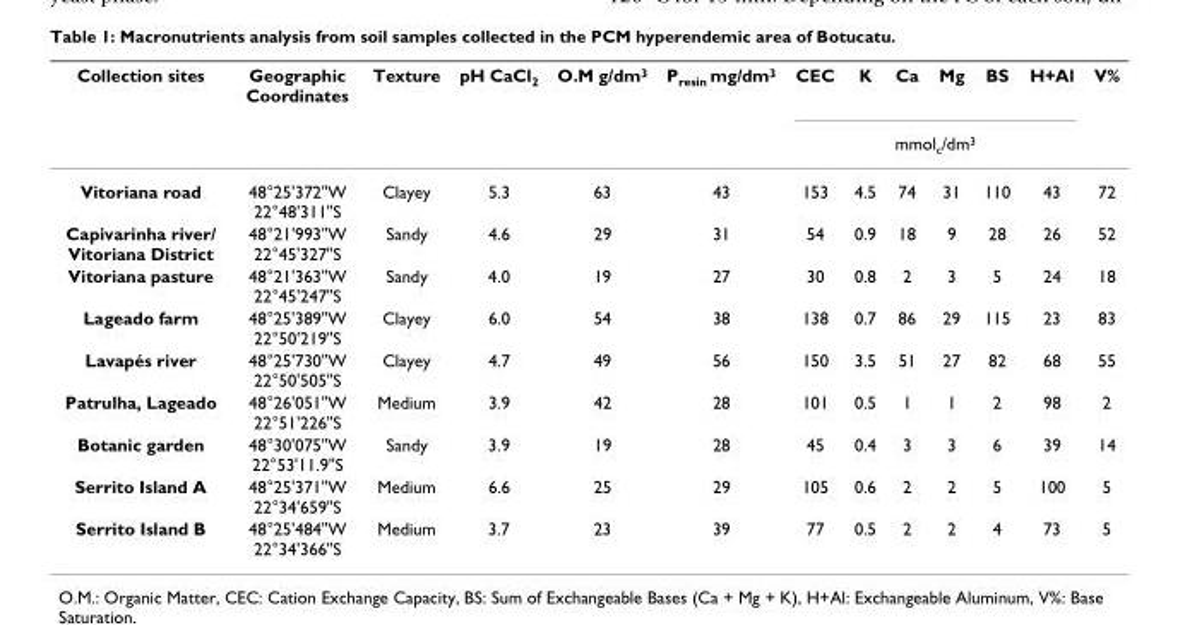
<table><thead><tr><td rowspan="2">Collection sites</td><td rowspan="2">Geographic Coordinates</td><td rowspan="2">Texture</td><td rowspan="2">pH CaCl<sub>2</sub></td><td rowspan="2">O.M g/dm<sup>3</sup></td><td rowspan="2">P<sub>resin</sub> mg/dm<sup>3</sup></td><td>CEC</td><td>K</td><td>Ca</td><td>Mg</td><td>BS</td><td>H+Al</td><td rowspan="2">V%</td></tr><tr><td colspan="6">mmol<sub>c</sub>/dm<sup>3</sup></td></tr></thead><tbody><tr><td>Vitoriana road</td><td>48°25&#x27;372&quot;W 22°48&#x27;311&quot;S</td><td>Clayey</td><td>5.3</td><td>63</td><td>43</td><td>153</td><td>4.5</td><td>74</td><td>31</td><td>110</td><td>43</td><td>72</td></tr><tr><td>Capivarinha river/ Vitoriana District</td><td>48°21&#x27;993&quot;W 22°45&#x27;327&quot;S</td><td>Sandy</td><td>4.6</td><td>29</td><td>31</td><td>54</td><td>0.9</td><td>18</td><td>9</td><td>28</td><td>26</td><td>52</td></tr><tr><td>Vitoriana pasture</td><td>48°21&#x27;363&quot;W 22°45&#x27;247&quot;S</td><td>Sandy</td><td>4.0</td><td>19</td><td>27</td><td>30</td><td>0.8</td><td>2</td><td>3</td><td>5</td><td>24</td><td>18</td></tr><tr><td>Lageado farm</td><td>48°25&#x27;389&quot;W 22°50&#x27;219&quot;S</td><td>Clayey</td><td>6.0</td><td>54</td><td>38</td><td>138</td><td>0.7</td><td>86</td><td>29</td><td>115</td><td>23</td><td>83</td></tr><tr><td>Lavapés river</td><td>48°25&#x27;730&quot;W 22°50&#x27;505&quot;S</td><td>Clayey</td><td>4.7</td><td>49</td><td>56</td><td>150</td><td>3.5</td><td>51</td><td>27</td><td>82</td><td>68</td><td>55</td></tr><tr><td>Patrulha, Lageado</td><td>48°26&#x27;051&quot;W 22°51&#x27;226&quot;S</td><td>Medium</td><td>3.9</td><td>42</td><td>28</td><td>101</td><td>0.5</td><td>1</td><td>1</td><td>2</td><td>98</td><td>2</td></tr><tr><td>Botanic garden</td><td>48°30&#x27;075&quot;W 22°53&#x27;11.9&quot;S</td><td>Sandy</td><td>3.9</td><td>19</td><td>28</td><td>45</td><td>0.4</td><td>3</td><td>3</td><td>6</td><td>39</td><td>14</td></tr><tr><td>Serrito Island A</td><td>48°25&#x27;371&quot;W 22°34&#x27;659&quot;S</td><td>Medium</td><td>6.6</td><td>25</td><td>29</td><td>105</td><td>0.6</td><td>2</td><td>2</td><td>5</td><td>100</td><td>5</td></tr><tr><td>Serrito Island B</td><td>48°25&#x27;484&quot;W 22°34&#x27;366&quot;S</td><td>Medium</td><td>3.7</td><td>23</td><td>39</td><td>77</td><td>0.5</td><td>2</td><td>2</td><td>4</td><td>73</td><td>5</td></tr></tbody></table>